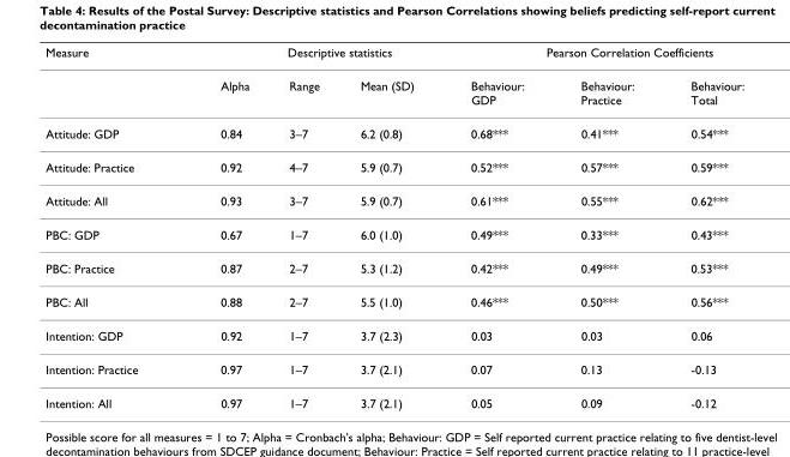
<table><thead><tr><td rowspan="2">Measure</td><td colspan="3">Descriptive statistics</td><td colspan="3">Pearson Correlation Coefficients</td></tr><tr><td>Alpha</td><td>Range</td><td>Mean (SD)</td><td>Behaviour: GDP</td><td>Behaviour: Practice</td><td>Behaviour: Total</td></tr></thead><tbody><tr><td>Attitude: GDP</td><td>0.84</td><td>3–7</td><td>6.2 (0.8)</td><td>0.68***</td><td>0.41***</td><td>0.54***</td></tr><tr><td>Attitude: Practice</td><td>0.92</td><td>4–7</td><td>5.9 (0.7)</td><td>0.52***</td><td>0.57***</td><td>0.59***</td></tr><tr><td>Attitude: All</td><td>0.93</td><td>3–7</td><td>5.9 (0.7)</td><td>0.61***</td><td>0.55***</td><td>0.62***</td></tr><tr><td>PBC: GDP</td><td>0.67</td><td>1–7</td><td>6.0 (1.0)</td><td>0.49***</td><td>0.33***</td><td>0.43***</td></tr><tr><td>PBC: Practice</td><td>0.87</td><td>2–7</td><td>5.3 (1.2)</td><td>0.42***</td><td>0.49***</td><td>0.53***</td></tr><tr><td>PBC: All</td><td>0.88</td><td>2–7</td><td>5.5 (1.0)</td><td>0.46***</td><td>0.50***</td><td>0.56***</td></tr><tr><td>Intention: GDP</td><td>0.92</td><td>1–7</td><td>3.7 (2.3)</td><td>0.03</td><td>0.03</td><td>0.06</td></tr><tr><td>Intention: Practice</td><td>0.97</td><td>1–7</td><td>3.7 (2.1)</td><td>0.07</td><td>0.13</td><td>-0.13</td></tr><tr><td>Intention: All</td><td>0.97</td><td>1–7</td><td>3.7 (2.1)</td><td>0.05</td><td>0.09</td><td>-0.12</td></tr></tbody></table>